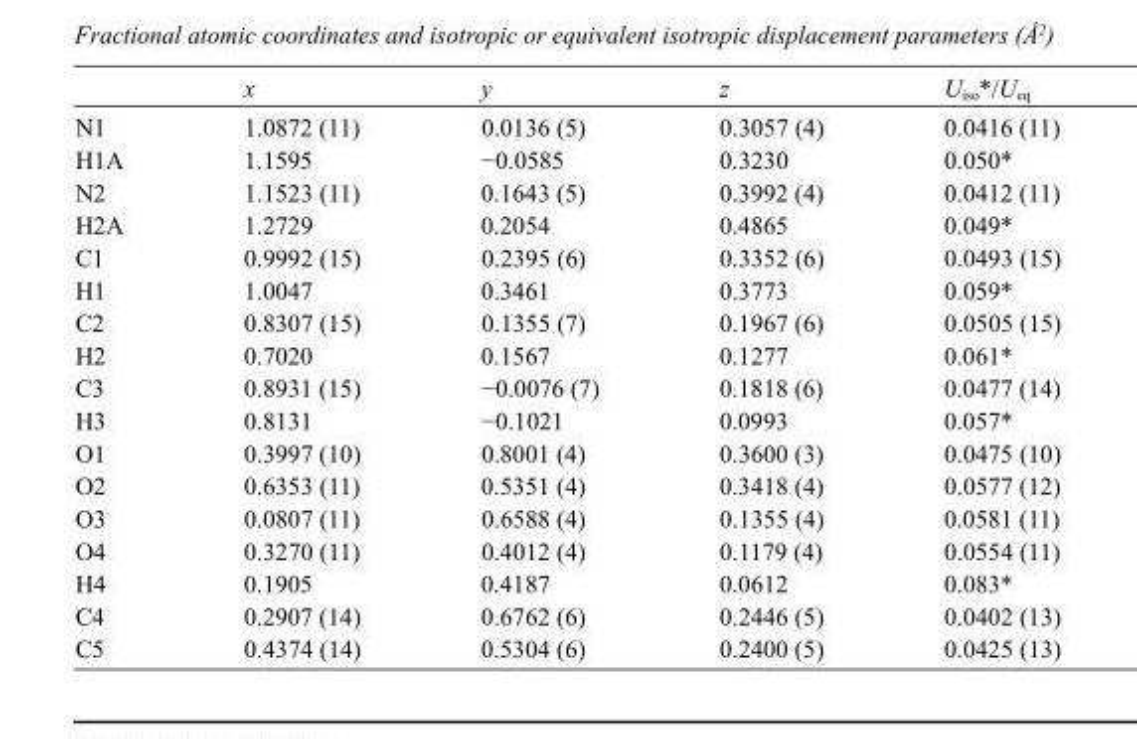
<table><thead><tr><td></td><td>x</td><td>y</td><td>z</td><td>U<sub>iso</sub>*/U<sub>eq</sub></td></tr></thead><tbody><tr><td>N1</td><td>1.0872 (11)</td><td>0.0136 (5)</td><td>0.3057 (4)</td><td>0.0416 (11)</td></tr><tr><td>H1A</td><td>1.1595</td><td>−0.0585</td><td>0.3230</td><td>0.050*</td></tr><tr><td>N2</td><td>1.1523 (11)</td><td>0.1643 (5)</td><td>0.3992 (4)</td><td>0.0412 (11)</td></tr><tr><td>H2A</td><td>1.2729</td><td>0.2054</td><td>0.4865</td><td>0.049*</td></tr><tr><td>C1</td><td>0.9992 (15)</td><td>0.2395 (6)</td><td>0.3352 (6)</td><td>0.0493 (15)</td></tr><tr><td>H1</td><td>1.0047</td><td>0.3461</td><td>0.3773</td><td>0.059*</td></tr><tr><td>C2</td><td>0.8307 (15)</td><td>0.1355 (7)</td><td>0.1967 (6)</td><td>0.0505 (15)</td></tr><tr><td>H2</td><td>0.7020</td><td>0.1567</td><td>0.1277</td><td>0.061*</td></tr><tr><td>C3</td><td>0.8931 (15)</td><td>−0.0076 (7)</td><td>0.1818 (6)</td><td>0.0477 (14)</td></tr><tr><td>H3</td><td>0.8131</td><td>−0.1021</td><td>0.0993</td><td>0.057*</td></tr><tr><td>O1</td><td>0.3997 (10)</td><td>0.8001 (4)</td><td>0.3600 (3)</td><td>0.0475 (10)</td></tr><tr><td>O2</td><td>0.6353 (11)</td><td>0.5351 (4)</td><td>0.3418 (4)</td><td>0.0577 (12)</td></tr><tr><td>O3</td><td>0.0807 (11)</td><td>0.6588 (4)</td><td>0.1355 (4)</td><td>0.0581 (11)</td></tr><tr><td>O4</td><td>0.3270 (11)</td><td>0.4012 (4)</td><td>0.1179 (4)</td><td>0.0554 (11)</td></tr><tr><td>H4</td><td>0.1905</td><td>0.4187</td><td>0.0612</td><td>0.083*</td></tr><tr><td>C4</td><td>0.2907 (14)</td><td>0.6762 (6)</td><td>0.2446 (5)</td><td>0.0402 (13)</td></tr><tr><td>C5</td><td>0.4374 (14)</td><td>0.5304 (6)</td><td>0.2400 (5)</td><td>0.0425 (13)</td></tr></tbody></table>